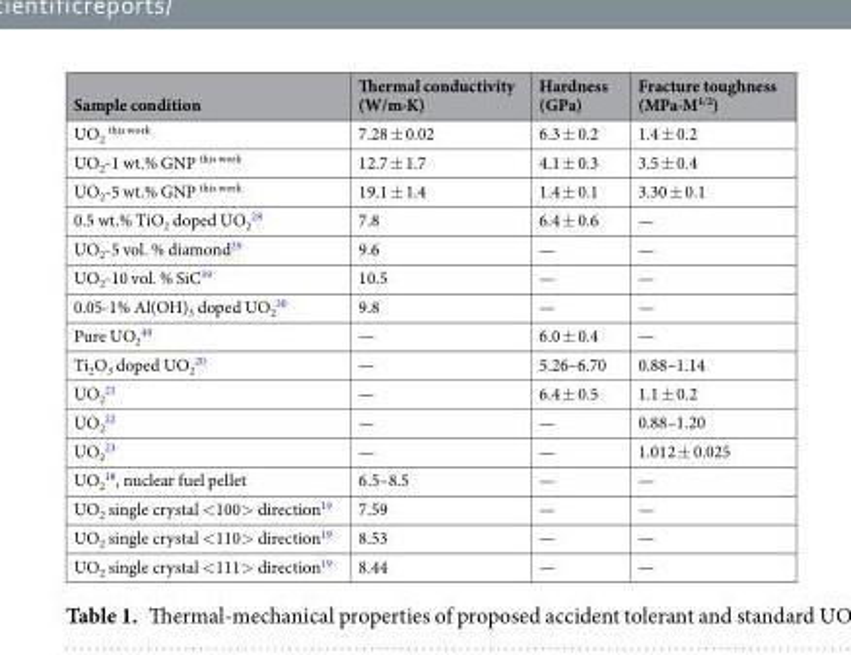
<table><thead><tr><td>Sample condition</td><td>Thermal conductivity (W/m·K)</td><td>Hardness (GPa)</td><td>Fracture toughness (MPa·M<sup>1/2</sup>)</td></tr></thead><tbody><tr><td>UO<sub>2</sub> <sup>this work</sup></td><td>7.28 ± 0.02</td><td>6.3 ± 0.2</td><td>1.4 ± 0.2</td></tr><tr><td>UO<sub>2</sub>-1 wt.% GNP <sup>this work</sup></td><td>12.7 ± 1.7</td><td>4.1 ± 0.3</td><td>3.5 ± 0.4</td></tr><tr><td>UO<sub>2</sub>-5 wt.% GNP <sup>this work</sup></td><td>19.1 ± 1.4</td><td>1.4 ± 0.1</td><td>3.30 ± 0.1</td></tr><tr><td>0.5 wt.% TiO<sub>2</sub> doped UO<sub>2</sub> <sup>28</sup></td><td>7.8</td><td>6.4 ± 0.6</td><td>—</td></tr><tr><td>UO<sub>2</sub>-5 vol. % diamond<sup>29</sup></td><td>9.6</td><td>—</td><td>—</td></tr><tr><td>UO<sub>2</sub>-10 vol. % SiC<sup>39</sup></td><td>10.5</td><td>—</td><td>—</td></tr><tr><td>0.05-1% Al(OH)<sub>3</sub> doped UO<sub>2</sub> <sup>30</sup></td><td>9.8</td><td>—</td><td>—</td></tr><tr><td>Pure UO<sub>2</sub> <sup>40</sup></td><td>—</td><td>6.0 ± 0.4</td><td>—</td></tr><tr><td>Ti<sub>2</sub>O<sub>3</sub> doped UO<sub>2</sub> <sup>20</sup></td><td>—</td><td>5.26–6.70</td><td>0.88–1.14</td></tr><tr><td>UO<sub>2</sub> <sup>21</sup></td><td>—</td><td>6.4 ± 0.5</td><td>1.1 ± 0.2</td></tr><tr><td>UO<sub>2</sub> <sup>22</sup></td><td>—</td><td>—</td><td>0.88–1.20</td></tr><tr><td>UO<sub>2</sub> <sup>23</sup></td><td>—</td><td>—</td><td>1.012 ± 0.025</td></tr><tr><td>UO<sub>2</sub> <sup>18</sup>, nuclear fuel pellet</td><td>6.5–8.5</td><td>—</td><td>—</td></tr><tr><td>UO<sub>2</sub> single crystal &lt;100&gt; direction<sup>19</sup></td><td>7.59</td><td>—</td><td>—</td></tr><tr><td>UO<sub>2</sub> single crystal &lt;110&gt; direction<sup>19</sup></td><td>8.53</td><td>—</td><td>—</td></tr><tr><td>UO<sub>2</sub> single crystal &lt;111&gt; direction<sup>19</sup></td><td>8.44</td><td>—</td><td>—</td></tr></tbody></table>